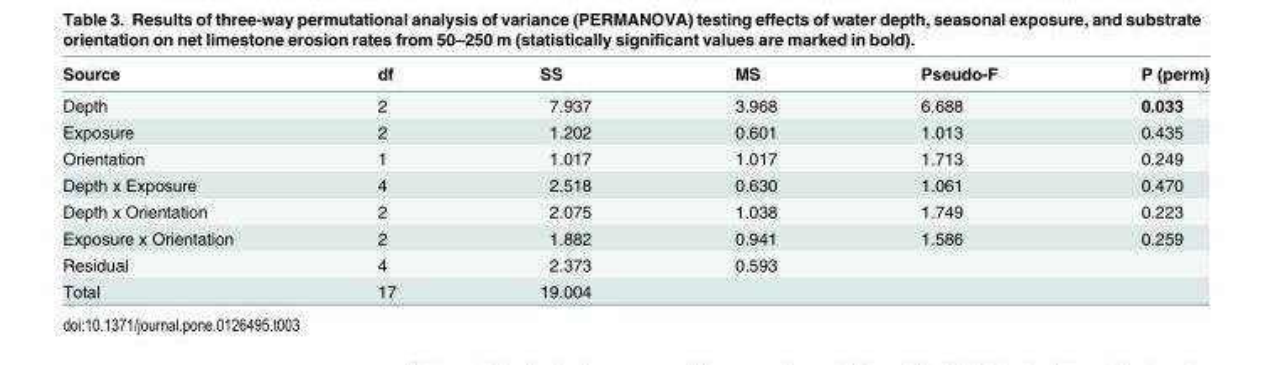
<table><thead><tr><td>Source</td><td>df</td><td>SS</td><td>MS</td><td>Pseudo-F</td><td>P (perm)</td></tr></thead><tbody><tr><td>Depth</td><td>2</td><td>7.937</td><td>3.968</td><td>6.688</td><td>0.033</td></tr><tr><td>Exposure</td><td>2</td><td>1.202</td><td>0.601</td><td>1.013</td><td>0.435</td></tr><tr><td>Orientation</td><td>1</td><td>1.017</td><td>1.017</td><td>1.713</td><td>0.249</td></tr><tr><td>Depth x Exposure</td><td>4</td><td>2.518</td><td>0.630</td><td>1.061</td><td>0.470</td></tr><tr><td>Depth x Orientation</td><td>2</td><td>2.075</td><td>1.038</td><td>1.749</td><td>0.223</td></tr><tr><td>Exposure x Orientation</td><td>2</td><td>1.882</td><td>0.941</td><td>1.586</td><td>0.259</td></tr><tr><td>Residual</td><td>4</td><td>2.373</td><td>0.593</td><td></td><td></td></tr><tr><td>Total</td><td>17</td><td>19.004</td><td></td><td></td><td></td></tr></tbody></table>